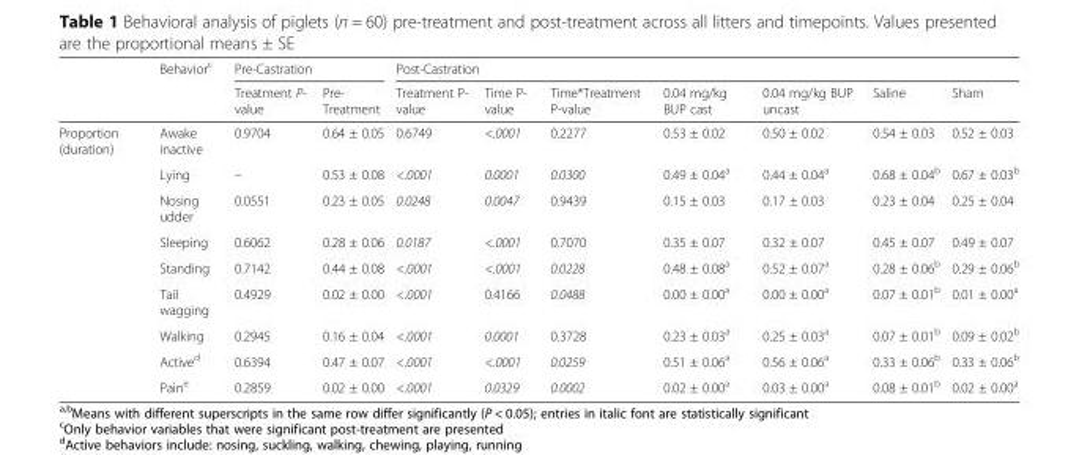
<table><thead><tr><td rowspan="2"></td><td rowspan="2">Behavior<sup>c</sup></td><td colspan="2">Pre-Castration</td><td colspan="7">Post-Castration</td></tr><tr><td>Treatment P- value</td><td>Pre- Treatment</td><td>Treatment P- value</td><td>Time P- value</td><td>Time*Treatment P-value</td><td>0.04 mg/kg BUP cast</td><td>0.04 mg/kg BUP uncast</td><td>Saline</td><td>Sham</td></tr></thead><tbody><tr><td rowspan="9">Proportion (duration)</td><td>Awake inactive</td><td>0.9704</td><td>0.64 ± 0.05</td><td>0.6749</td><td>&lt;.0001</td><td>0.2277</td><td>0.53 ± 0.02</td><td>0.50 ± 0.02</td><td>0.54 ± 0.03</td><td>0.52 ± 0.03</td></tr><tr><td>Lying</td><td>–</td><td>0.53 ± 0.08</td><td>&lt;.0001</td><td>0.0001</td><td>0.0300</td><td>0.49 ± 0.04<sup>a</sup></td><td>0.44 ± 0.04<sup>a</sup></td><td>0.68 ± 0.04<sup>b</sup></td><td>0.67 ± 0.03<sup>b</sup></td></tr><tr><td>Nosing udder</td><td>0.0551</td><td>0.23 ± 0.05</td><td>0.0248</td><td>0.0047</td><td>0.9439</td><td>0.15 ± 0.03</td><td>0.17 ± 0.03</td><td>0.23 ± 0.04</td><td>0.25 ± 0.04</td></tr><tr><td>Sleeping</td><td>0.6062</td><td>0.28 ± 0.06</td><td>0.0187</td><td>&lt;.0001</td><td>0.7070</td><td>0.35 ± 0.07</td><td>0.32 ± 0.07</td><td>0.45 ± 0.07</td><td>0.49 ± 0.07</td></tr><tr><td>Standing</td><td>0.7142</td><td>0.44 ± 0.08</td><td>&lt;.0001</td><td>&lt;.0001</td><td>0.0228</td><td>0.48 ± 0.08<sup>a</sup></td><td>0.52 ± 0.07<sup>a</sup></td><td>0.28 ± 0.06<sup>b</sup></td><td>0.29 ± 0.06<sup>b</sup></td></tr><tr><td>Tail wagging</td><td>0.4929</td><td>0.02 ± 0.00</td><td>&lt;.0001</td><td>0.4166</td><td>0.0488</td><td>0.00 ± 0.00<sup>a</sup></td><td>0.00 ± 0.00<sup>a</sup></td><td>0.07 ± 0.01<sup>b</sup></td><td>0.01 ± 0.00<sup>a</sup></td></tr><tr><td>Walking</td><td>0.2945</td><td>0.16 ± 0.04</td><td>&lt;.0001</td><td>0.0001</td><td>0.3728</td><td>0.23 ± 0.03<sup>a</sup></td><td>0.25 ± 0.03<sup>a</sup></td><td>0.07 ± 0.01<sup>b</sup></td><td>0.09 ± 0.02<sup>b</sup></td></tr><tr><td>Active<sup>d</sup></td><td>0.6394</td><td>0.47 ± 0.07</td><td>&lt;.0001</td><td>&lt;.0001</td><td>0.0259</td><td>0.51 ± 0.06<sup>a</sup></td><td>0.56 ± 0.06<sup>a</sup></td><td>0.33 ± 0.06<sup>b</sup></td><td>0.33 ± 0.06<sup>b</sup></td></tr><tr><td>Pain<sup>e</sup></td><td>0.2859</td><td>0.02 ± 0.00</td><td>&lt;.0001</td><td>0.0329</td><td>0.0002</td><td>0.02 ± 0.00<sup>a</sup></td><td>0.03 ± 0.00<sup>a</sup></td><td>0.08 ± 0.01<sup>b</sup></td><td>0.02 ± 0.00<sup>a</sup></td></tr></tbody></table>